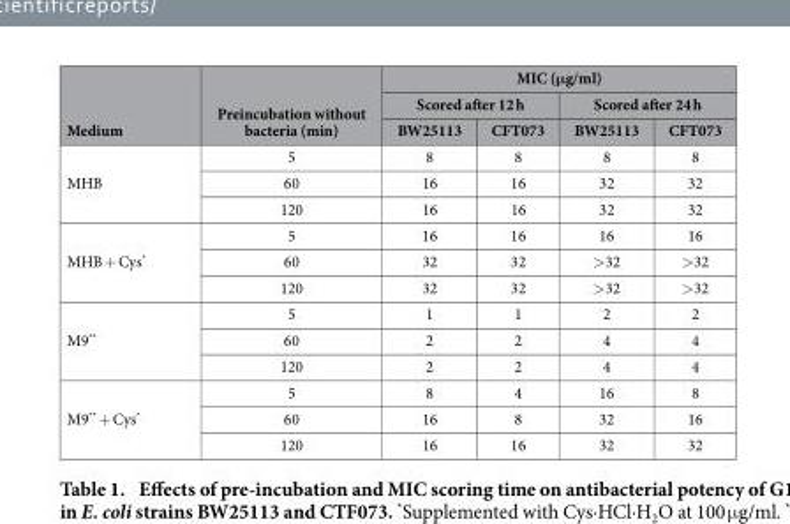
<table><thead><tr><td rowspan="3">Medium</td><td rowspan="3">Preincubation without bacteria (min)</td><td colspan="4">MIC (μg/ml)</td></tr><tr><td colspan="2">Scored after 12 h</td><td colspan="2">Scored after 24 h</td></tr><tr><td>BW25113</td><td>CFT073</td><td>BW25113</td><td>CFT073</td></tr></thead><tbody><tr><td rowspan="3">MHB</td><td>5</td><td>8</td><td>8</td><td>8</td><td>8</td></tr><tr><td>60</td><td>16</td><td>16</td><td>32</td><td>32</td></tr><tr><td>120</td><td>16</td><td>16</td><td>32</td><td>32</td></tr><tr><td rowspan="3">MHB + Cys*</td><td>5</td><td>16</td><td>16</td><td>16</td><td>16</td></tr><tr><td>60</td><td>32</td><td>32</td><td>&gt; 32</td><td>&gt; 32</td></tr><tr><td>120</td><td>32</td><td>32</td><td>&gt; 32</td><td>&gt; 32</td></tr><tr><td rowspan="3">M9**</td><td>5</td><td>1</td><td>1</td><td>2</td><td>2</td></tr><tr><td>60</td><td>2</td><td>2</td><td>4</td><td>4</td></tr><tr><td>120</td><td>2</td><td>2</td><td>4</td><td>4</td></tr><tr><td rowspan="3">M9** + Cys*</td><td>5</td><td>8</td><td>4</td><td>16</td><td>8</td></tr><tr><td>60</td><td>16</td><td>8</td><td>32</td><td>16</td></tr><tr><td>120</td><td>16</td><td>16</td><td>32</td><td>32</td></tr></tbody></table>